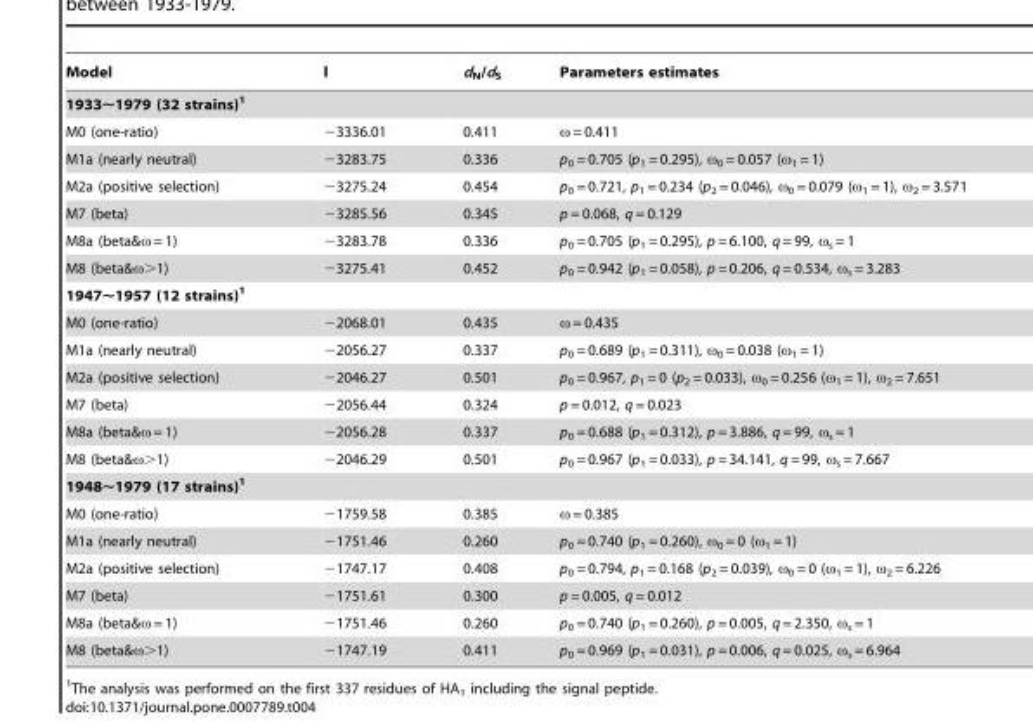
<table><thead><tr><td>Model</td><td>l</td><td>d<sub>N</sub>/d<sub>S</sub></td><td>Parameters estimates</td></tr></thead><tbody><tr><td colspan="4">1933∼1979 (32 strains)1</td></tr><tr><td>M0 (one-ratio)</td><td>−3336.01</td><td>0.411</td><td>ω = 0.411</td></tr><tr><td>M1a (nearly neutral)</td><td>−3283.75</td><td>0.336</td><td>p<sub>0</sub> = 0.705 (p<sub>1</sub> = 0.295), ω<sub>0</sub> = 0.057 (ω<sub>1</sub> = 1)</td></tr><tr><td>M2a (positive selection)</td><td>−3275.24</td><td>0.454</td><td>p<sub>0</sub> = 0.721, p<sub>1</sub> = 0.234 (p<sub>2</sub> = 0.046), ω<sub>0</sub> = 0.079 (ω<sub>1</sub> = 1), ω<sub>2</sub> = 3.571</td></tr><tr><td>M7 (beta)</td><td>−3285.56</td><td>0.345</td><td>p = 0.068, q = 0.129</td></tr><tr><td>M8a (beta&amp;ω = 1)</td><td>−3283.78</td><td>0.336</td><td>p<sub>0</sub> = 0.705 (p<sub>1</sub> = 0.295), p = 6.100, q = 99, ω<sub>s</sub> = 1</td></tr><tr><td>M8 (beta&amp;ω&gt;1)</td><td>−3275.41</td><td>0.452</td><td>p<sub>0</sub> = 0.942 (p<sub>1</sub> = 0.058), p = 0.206, q = 0.534, ω<sub>s</sub> = 3.283</td></tr><tr><td colspan="4">1947∼1957 (12 strains)1</td></tr><tr><td>M0 (one-ratio)</td><td>−2068.01</td><td>0.435</td><td>ω = 0.435</td></tr><tr><td>M1a (nearly neutral)</td><td>−2056.27</td><td>0.337</td><td>p<sub>0</sub> = 0.689 (p<sub>1</sub> = 0.311), ω<sub>0</sub> = 0.038 (ω<sub>1</sub> = 1)</td></tr><tr><td>M2a (positive selection)</td><td>−2046.27</td><td>0.501</td><td>p<sub>0</sub> = 0.967, p<sub>1</sub> = 0 (p<sub>2</sub> = 0.033), ω<sub>0</sub> = 0.256 (ω<sub>1</sub> = 1), ω<sub>2</sub> = 7.651</td></tr><tr><td>M7 (beta)</td><td>−2056.44</td><td>0.324</td><td>p = 0.012, q = 0.023</td></tr><tr><td>M8a (beta&amp;ω = 1)</td><td>−2056.28</td><td>0.337</td><td>p<sub>0</sub> = 0.688 (p<sub>1</sub> = 0.312), p = 3.886, q = 99, ω<sub>s</sub> = 1</td></tr><tr><td>M8 (beta&amp;ω&gt;1)</td><td>−2046.29</td><td>0.501</td><td>p<sub>0</sub> = 0.967 (p<sub>1</sub> = 0.033), p = 34.141, q = 99, ω<sub>s</sub> = 7.667</td></tr><tr><td colspan="4">1948∼1979 (17 strains)1</td></tr><tr><td>M0 (one-ratio)</td><td>−1759.58</td><td>0.385</td><td>ω = 0.385</td></tr><tr><td>M1a (nearly neutral)</td><td>−1751.46</td><td>0.260</td><td>p<sub>0</sub> = 0.740 (p<sub>1</sub> = 0.260), ω<sub>0</sub> = 0 (ω<sub>1</sub> = 1)</td></tr><tr><td>M2a (positive selection)</td><td>−1747.17</td><td>0.408</td><td>p<sub>0</sub> = 0.794, p<sub>1</sub> = 0.168 (p<sub>2</sub> = 0.039), ω<sub>0</sub> = 0 (ω<sub>1</sub> = 1), ω<sub>2</sub> = 6.226</td></tr><tr><td>M7 (beta)</td><td>−1751.61</td><td>0.300</td><td>p = 0.005, q = 0.012</td></tr><tr><td>M8a (beta&amp;ω = 1)</td><td>−1751.46</td><td>0.260</td><td>p<sub>0</sub> = 0.740 (p<sub>1</sub> = 0.260), p = 0.005, q = 2.350, ω<sub>s</sub> = 1</td></tr><tr><td>M8 (beta&amp;ω&gt;1)</td><td>−1747.19</td><td>0.411</td><td>p<sub>0</sub> = 0.969 (p<sub>1</sub> = 0.031), p = 0.006, q = 0.025, ω<sub>s</sub> = 6.964</td></tr></tbody></table>